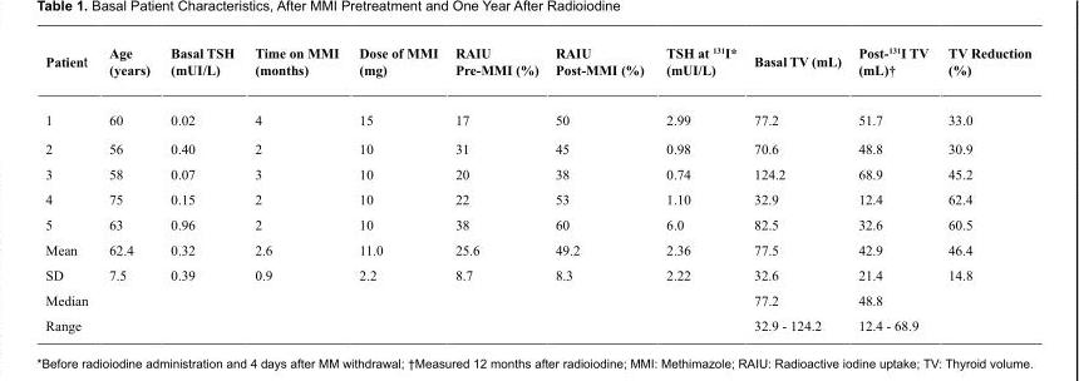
<table><thead><tr><td>Patient</td><td>Age (years)</td><td>Basal TSH (mUI/L)</td><td>Time on MMI (months)</td><td>Dose of MMI (mg)</td><td>RAIU Pre-MMI (%)</td><td>RAIU Post-MMI (%)</td><td>TSH at <sup>131</sup>I* (mUI/L)</td><td>Basal TV (mL)</td><td>Post-<sup>131</sup>I TV (mL)†</td><td>TV Reduction (%)</td></tr></thead><tbody><tr><td>1</td><td>60</td><td>0.02</td><td>4</td><td>15</td><td>17</td><td>50</td><td>2.99</td><td>77.2</td><td>51.7</td><td>33.0</td></tr><tr><td>2</td><td>56</td><td>0.40</td><td>2</td><td>10</td><td>31</td><td>45</td><td>0.98</td><td>70.6</td><td>48.8</td><td>30.9</td></tr><tr><td>3</td><td>58</td><td>0.07</td><td>3</td><td>10</td><td>20</td><td>38</td><td>0.74</td><td>124.2</td><td>68.9</td><td>45.2</td></tr><tr><td>4</td><td>75</td><td>0.15</td><td>2</td><td>10</td><td>22</td><td>53</td><td>1.10</td><td>32.9</td><td>12.4</td><td>62.4</td></tr><tr><td>5</td><td>63</td><td>0.96</td><td>2</td><td>10</td><td>38</td><td>60</td><td>6.0</td><td>82.5</td><td>32.6</td><td>60.5</td></tr><tr><td>Mean</td><td>62.4</td><td>0.32</td><td>2.6</td><td>11.0</td><td>25.6</td><td>49.2</td><td>2.36</td><td>77.5</td><td>42.9</td><td>46.4</td></tr><tr><td>SD</td><td>7.5</td><td>0.39</td><td>0.9</td><td>2.2</td><td>8.7</td><td>8.3</td><td>2.22</td><td>32.6</td><td>21.4</td><td>14.8</td></tr><tr><td>Median</td><td></td><td></td><td></td><td></td><td></td><td></td><td></td><td>77.2</td><td>48.8</td><td></td></tr><tr><td>Range</td><td></td><td></td><td></td><td></td><td></td><td></td><td></td><td>32.9 - 124.2</td><td>12.4 - 68.9</td><td></td></tr></tbody></table>